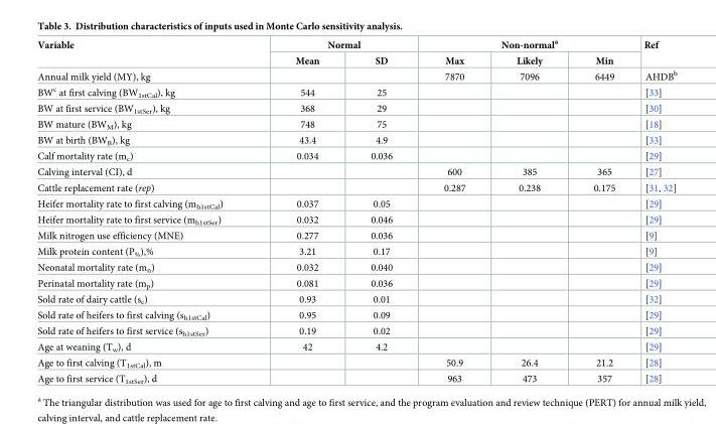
<table><thead><tr><td rowspan="2">Variable</td><td colspan="2">Normal</td><td colspan="3">Non-normal<sup>a</sup></td><td rowspan="2">Ref</td></tr><tr><td>Mean</td><td>SD</td><td>Max</td><td>Likely</td><td>Min</td></tr></thead><tbody><tr><td>Annual milk yield (MY), kg</td><td></td><td></td><td>7870</td><td>7096</td><td>6449</td><td>AHDB<sup>b</sup></td></tr><tr><td>BW<sup>c</sup> at first calving (BW<sub>1stCal</sub>), kg</td><td>544</td><td>25</td><td></td><td></td><td></td><td>[33]</td></tr><tr><td>BW at first service (BW<sub>1stSer</sub>), kg</td><td>368</td><td>29</td><td></td><td></td><td></td><td>[30]</td></tr><tr><td>BW mature (BW<sub>M</sub>), kg</td><td>748</td><td>75</td><td></td><td></td><td></td><td>[18]</td></tr><tr><td>BW at birth (BW<sub>B</sub>), kg</td><td>43.4</td><td>4.9</td><td></td><td></td><td></td><td>[33]</td></tr><tr><td>Calf mortality rate (m<sub>c</sub>)</td><td>0.034</td><td>0.036</td><td></td><td></td><td></td><td>[29]</td></tr><tr><td>Calving interval (CI), d</td><td></td><td></td><td>600</td><td>385</td><td>365</td><td>[27]</td></tr><tr><td>Cattle replacement rate (rep)</td><td></td><td></td><td>0.287</td><td>0.238</td><td>0.175</td><td>[31, 32]</td></tr><tr><td>Heifer mortality rate to first calving (m<sub>h1stCal</sub>)</td><td>0.037</td><td>0.05</td><td></td><td></td><td></td><td>[29]</td></tr><tr><td>Heifer mortality rate to first service (m<sub>h1stSer</sub>)</td><td>0.032</td><td>0.046</td><td></td><td></td><td></td><td>[29]</td></tr><tr><td>Milk nitrogen use efficiency (MNE)</td><td>0.277</td><td>0.036</td><td></td><td></td><td></td><td>[9]</td></tr><tr><td>Milk protein content (P<sub>%</sub>),%</td><td>3.21</td><td>0.17</td><td></td><td></td><td></td><td>[9]</td></tr><tr><td>Neonatal mortality rate (m<sub>n</sub>)</td><td>0.032</td><td>0.040</td><td></td><td></td><td></td><td>[29]</td></tr><tr><td>Perinatal mortality rate (m<sub>p</sub>)</td><td>0.081</td><td>0.036</td><td></td><td></td><td></td><td>[29]</td></tr><tr><td>Sold rate of dairy cattle (s<sub>c</sub>)</td><td>0.93</td><td>0.01</td><td></td><td></td><td></td><td>[32]</td></tr><tr><td>Sold rate of heifers to first calving (s<sub>h1stCal</sub>)</td><td>0.95</td><td>0.09</td><td></td><td></td><td></td><td>[29]</td></tr><tr><td>Sold rate of heifers to first service (s<sub>h1stSer</sub>)</td><td>0.19</td><td>0.02</td><td></td><td></td><td></td><td>[29]</td></tr><tr><td>Age at weaning (T<sub>w</sub>), d</td><td>42</td><td>4.2</td><td></td><td></td><td></td><td>[29]</td></tr><tr><td>Age to first calving (T<sub>1stCal</sub>), m</td><td></td><td></td><td>50.9</td><td>26.4</td><td>21.2</td><td>[28]</td></tr><tr><td>Age to first service (T<sub>1stSer</sub>), d</td><td></td><td></td><td>963</td><td>473</td><td>357</td><td>[28]</td></tr></tbody></table>